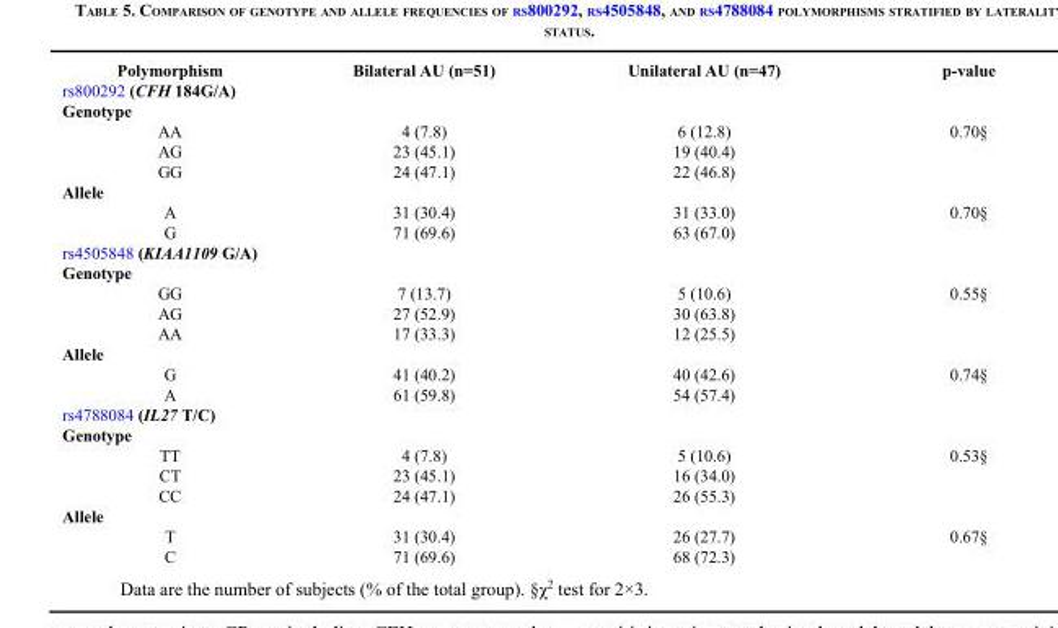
<table><thead><tr><td>Polymorphism</td><td>Bilateral AU (n=51)</td><td>Unilateral AU (n=47)</td><td>p-value</td></tr></thead><tbody><tr><td colspan="4">rs800292 (CFH 184G/A)</td></tr><tr><td colspan="4">Genotype</td></tr><tr><td>AA</td><td>4 (7.8)</td><td>6 (12.8)</td><td>0.70§</td></tr><tr><td>AG</td><td>23 (45.1)</td><td>19 (40.4)</td><td></td></tr><tr><td>GG</td><td>24 (47.1)</td><td>22 (46.8)</td><td></td></tr><tr><td colspan="4">Allele</td></tr><tr><td>A</td><td>31 (30.4)</td><td>31 (33.0)</td><td>0.70§</td></tr><tr><td>G</td><td>71 (69.6)</td><td>63 (67.0)</td><td></td></tr><tr><td colspan="4">rs4505848 (KIAA1109 G/A)</td></tr><tr><td colspan="4">Genotype</td></tr><tr><td>GG</td><td>7 (13.7)</td><td>5 (10.6)</td><td>0.55§</td></tr><tr><td>AG</td><td>27 (52.9)</td><td>30 (63.8)</td><td></td></tr><tr><td>AA</td><td>17 (33.3)</td><td>12 (25.5)</td><td></td></tr><tr><td colspan="4">Allele</td></tr><tr><td>G</td><td>41 (40.2)</td><td>40 (42.6)</td><td>0.74§</td></tr><tr><td>A</td><td>61 (59.8)</td><td>54 (57.4)</td><td></td></tr><tr><td colspan="4">rs4788084 (IL27 T/C)</td></tr><tr><td colspan="4">Genotype</td></tr><tr><td>TT</td><td>4 (7.8)</td><td>5 (10.6)</td><td>0.53§</td></tr><tr><td>CT</td><td>23 (45.1)</td><td>16 (34.0)</td><td></td></tr><tr><td>CC</td><td>24 (47.1)</td><td>26 (55.3)</td><td></td></tr><tr><td colspan="4">Allele</td></tr><tr><td>T</td><td>31 (30.4)</td><td>26 (27.7)</td><td>0.67§</td></tr><tr><td>C</td><td>71 (69.6)</td><td>68 (72.3)</td><td></td></tr></tbody></table>